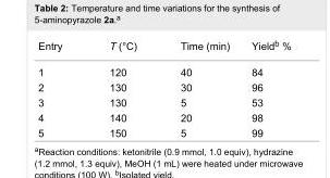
<table><tbody><tr><td>Entry</td><td>T (°C)</td><td>Time (min)</td><td>Yield<sup>b</sup> %</td></tr><tr><td>1</td><td>120</td><td>40</td><td>84</td></tr><tr><td>2</td><td>130</td><td>30</td><td>96</td></tr><tr><td>3</td><td>130</td><td>5</td><td>53</td></tr><tr><td>4</td><td>140</td><td>20</td><td>98</td></tr><tr><td>5</td><td>150</td><td>5</td><td>99</td></tr></tbody></table>